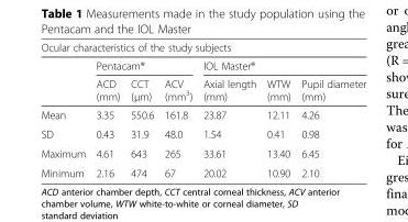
<table><thead><tr><td colspan="7">Ocular characteristics of the study subjects</td></tr><tr><td rowspan="2"></td><td colspan="3">Pentacam®</td><td colspan="3">IOL Master®</td></tr><tr><td>ACD (mm)</td><td>CCT (μm)</td><td>ACV (mm<sup>3</sup>)</td><td>Axial length (mm)</td><td>WTW (mm)</td><td>Pupil diameter (mm)</td></tr></thead><tbody><tr><td>Mean</td><td>3.35</td><td>550.6</td><td>161.8</td><td>23.87</td><td>12.11</td><td>4.26</td></tr><tr><td>SD</td><td>0.43</td><td>31.9</td><td>48.0</td><td>1.54</td><td>0.41</td><td>0.98</td></tr><tr><td>Maximum</td><td>4.61</td><td>643</td><td>265</td><td>33.61</td><td>13.40</td><td>6.45</td></tr><tr><td>Minimum</td><td>2.16</td><td>474</td><td>67</td><td>20.02</td><td>10.90</td><td>2.10</td></tr></tbody></table>